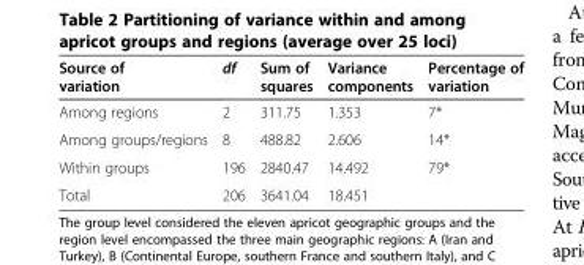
<table><thead><tr><td>Source of variation</td><td>df</td><td>Sum of squares</td><td>Variance components</td><td>Percentage of variation</td></tr></thead><tbody><tr><td>Among regions</td><td>2</td><td>311.75</td><td>1.353</td><td>7*</td></tr><tr><td>Among groups/regions</td><td>8</td><td>488.82</td><td>2.606</td><td>14*</td></tr><tr><td>Within groups</td><td>196</td><td>2840.47</td><td>14.492</td><td>79*</td></tr><tr><td>Total</td><td>206</td><td>3641.04</td><td>18.451</td><td></td></tr></tbody></table>